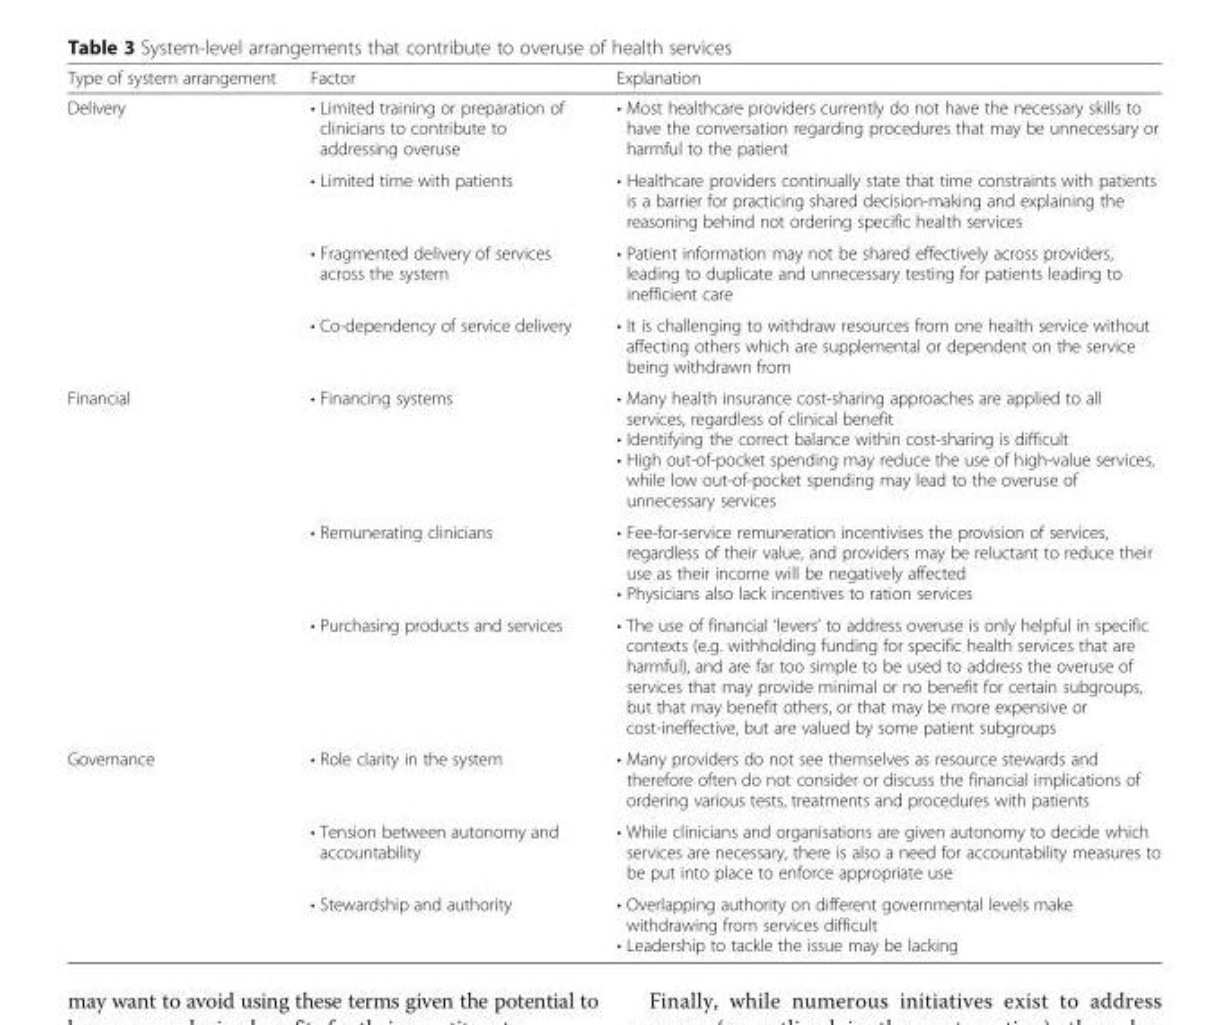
<table><thead><tr><td>Type of system arrangement</td><td>Factor</td><td>Explanation</td></tr></thead><tbody><tr><td rowspan="4">Delivery</td><td>• Limited training or preparation of clinicians to contribute to addressing overuse</td><td>• Most healthcare providers currently do not have the necessary skills to have the conversation regarding procedures that may be unnecessary or harmful to the patient</td></tr><tr><td>• Limited time with patients</td><td>• Healthcare providers continually state that time constraints with patients is a barrier for practicing shared decision-making and explaining the reasoning behind not ordering specific health services</td></tr><tr><td>• Fragmented delivery of services across the system</td><td>• Patient information may not be shared effectively across providers, leading to duplicate and unnecessary testing for patients leading to inefficient care</td></tr><tr><td>• Co-dependency of service delivery</td><td>• It is challenging to withdraw resources from one health service without affecting others which are supplemental or dependent on the service being withdrawn from</td></tr><tr><td rowspan="3">Financial</td><td>• Financing systems</td><td>• Many health insurance cost-sharing approaches are applied to all services, regardless of clinical benefit • Identifying the correct balance within cost-sharing is difficult • High out-of-pocket spending may reduce the use of high-value services, while low out-of-pocket spending may lead to the overuse of unnecessary services</td></tr><tr><td>• Remunerating clinicians</td><td>• Fee-for-service remuneration incentivises the provision of services, regardless of their value, and providers may be reluctant to reduce their use as their income will be negatively affected • Physicians also lack incentives to ration services</td></tr><tr><td>• Purchasing products and services</td><td>• The use of financial ‘levers’ to address overuse is only helpful in specific contexts (e.g. withholding funding for specific health services that are harmful), and are far too simple to be used to address the overuse of services that may provide minimal or no benefit for certain subgroups, but that may benefit others, or that may be more expensive or cost-ineffective, but are valued by some patient subgroups</td></tr><tr><td rowspan="3">Governance</td><td>• Role clarity in the system</td><td>• Many providers do not see themselves as resource stewards and therefore often do not consider or discuss the financial implications of ordering various tests, treatments and procedures with patients</td></tr><tr><td>• Tension between autonomy and accountability</td><td>• While clinicians and organisations are given autonomy to decide which services are necessary, there is also a need for accountability measures to be put into place to enforce appropriate use</td></tr><tr><td>• Stewardship and authority</td><td>• Overlapping authority on different governmental levels make withdrawing from services difficult • Leadership to tackle the issue may be lacking</td></tr></tbody></table>